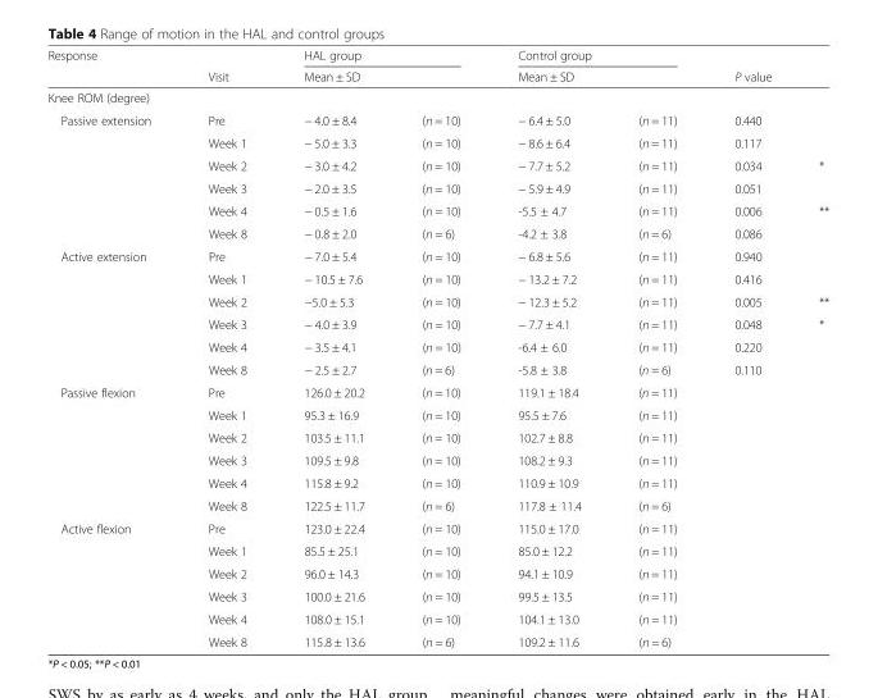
<table><thead><tr><td rowspan="2">Response</td><td rowspan="2">Visit</td><td colspan="2">HAL group</td><td colspan="2">Control group</td><td></td><td></td></tr><tr><td>Mean ± SD</td><td></td><td>Mean ± SD</td><td></td><td colspan="2">P value</td></tr></thead><tbody><tr><td colspan="8">Knee ROM (degree)</td></tr><tr><td rowspan="6">Passive extension</td><td>Pre</td><td>− 4.0 ± 8.4</td><td>(n = 10)</td><td>− 6.4 ± 5.0</td><td>(n = 11)</td><td>0.440</td><td></td></tr><tr><td>Week 1</td><td>− 5.0 ± 3.3</td><td>(n = 10)</td><td>− 8.6 ± 6.4</td><td>(n = 11)</td><td>0.117</td><td></td></tr><tr><td>Week 2</td><td>− 3.0 ± 4.2</td><td>(n = 10)</td><td>− 7.7 ± 5.2</td><td>(n = 11)</td><td>0.034</td><td>*</td></tr><tr><td>Week 3</td><td>− 2.0 ± 3.5</td><td>(n = 10)</td><td>− 5.9 ± 4.9</td><td>(n = 11)</td><td>0.051</td><td></td></tr><tr><td>Week 4</td><td>− 0.5 ± 1.6</td><td>(n = 10)</td><td>-5.5 ± 4.7</td><td>(n = 11)</td><td>0.006</td><td>**</td></tr><tr><td>Week 8</td><td>− 0.8 ± 2.0</td><td>(n = 6)</td><td>-4.2 ± 3.8</td><td>(n = 6)</td><td>0.086</td><td></td></tr><tr><td rowspan="6">Active extension</td><td>Pre</td><td>− 7.0 ± 5.4</td><td>(n = 10)</td><td>− 6.8 ± 5.6</td><td>(n = 11)</td><td>0.940</td><td></td></tr><tr><td>Week 1</td><td>− 10.5 ± 7.6</td><td>(n = 10)</td><td>− 13.2 ± 7.2</td><td>(n = 11)</td><td>0.416</td><td></td></tr><tr><td>Week 2</td><td>−5.0 ± 5.3</td><td>(n = 10)</td><td>− 12.3 ± 5.2</td><td>(n = 11)</td><td>0.005</td><td>**</td></tr><tr><td>Week 3</td><td>− 4.0 ± 3.9</td><td>(n = 10)</td><td>− 7.7 ± 4.1</td><td>(n = 11)</td><td>0.048</td><td>*</td></tr><tr><td>Week 4</td><td>− 3.5 ± 4.1</td><td>(n = 10)</td><td>-6.4 ± 6.0</td><td>(n = 11)</td><td>0.220</td><td></td></tr><tr><td>Week 8</td><td>− 2.5 ± 2.7</td><td>(n = 6)</td><td>-5.8 ± 3.8</td><td>(n = 6)</td><td>0.110</td><td></td></tr><tr><td rowspan="6">Passive flexion</td><td>Pre</td><td>126.0 ± 20.2</td><td>(n = 10)</td><td>119.1 ± 18.4</td><td>(n = 11)</td><td></td><td></td></tr><tr><td>Week 1</td><td>95.3 ± 16.9</td><td>(n = 10)</td><td>95.5 ± 7.6</td><td>(n = 11)</td><td></td><td></td></tr><tr><td>Week 2</td><td>103.5 ± 11.1</td><td>(n = 10)</td><td>102.7 ± 8.8</td><td>(n = 11)</td><td></td><td></td></tr><tr><td>Week 3</td><td>109.5 ± 9.8</td><td>(n = 10)</td><td>108.2 ± 9.3</td><td>(n = 11)</td><td></td><td></td></tr><tr><td>Week 4</td><td>115.8 ± 9.2</td><td>(n = 10)</td><td>110.9 ± 10.9</td><td>(n = 11)</td><td></td><td></td></tr><tr><td>Week 8</td><td>122.5 ± 11.7</td><td>(n = 6)</td><td>117.8 ± 11.4</td><td>(n = 6)</td><td></td><td></td></tr><tr><td rowspan="6">Active flexion</td><td>Pre</td><td>123.0 ± 22.4</td><td>(n = 10)</td><td>115.0 ± 17.0</td><td>(n = 11)</td><td></td><td></td></tr><tr><td>Week 1</td><td>85.5 ± 25.1</td><td>(n = 10)</td><td>85.0 ± 12.2</td><td>(n = 11)</td><td></td><td></td></tr><tr><td>Week 2</td><td>96.0 ± 14.3</td><td>(n = 10)</td><td>94.1 ± 10.9</td><td>(n = 11)</td><td></td><td></td></tr><tr><td>Week 3</td><td>100.0 ± 21.6</td><td>(n = 10)</td><td>99.5 ± 13.5</td><td>(n = 11)</td><td></td><td></td></tr><tr><td>Week 4</td><td>108.0 ± 15.1</td><td>(n = 10)</td><td>104.1 ± 13.0</td><td>(n = 11)</td><td></td><td></td></tr><tr><td>Week 8</td><td>115.8 ± 13.6</td><td>(n = 6)</td><td>109.2 ± 11.6</td><td>(n = 6)</td><td></td><td></td></tr></tbody></table>